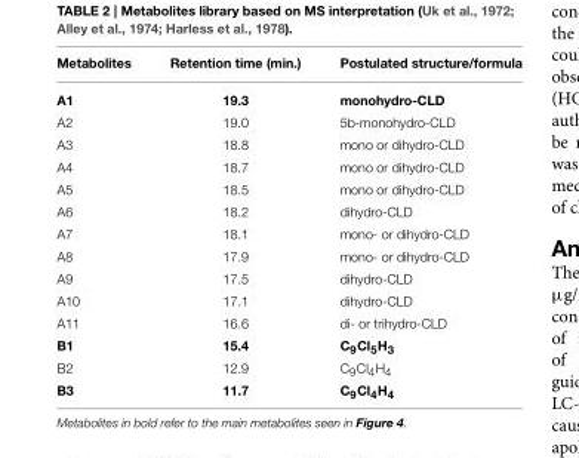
<table><thead><tr><td>Metabolites</td><td>Retention time (min.)</td><td>Postulated structure/formula</td></tr></thead><tbody><tr><td>A1</td><td>19.3</td><td>monohydro-CLD</td></tr><tr><td>A2</td><td>19.0</td><td>5b-monohydro-CLD</td></tr><tr><td>A3</td><td>18.8</td><td>mono or dihydro-CLD</td></tr><tr><td>A4</td><td>18.7</td><td>mono or dihydro-CLD</td></tr><tr><td>A5</td><td>18.5</td><td>mono or dihydro-CLD</td></tr><tr><td>A6</td><td>18.2</td><td>dihydro-CLD</td></tr><tr><td>A7</td><td>18.1</td><td>mono- or dihydro-CLD</td></tr><tr><td>A8</td><td>17.9</td><td>mono- or dihydro-CLD</td></tr><tr><td>A9</td><td>17.5</td><td>dihydro-CLD</td></tr><tr><td>A10</td><td>17.1</td><td>dihydro-CLD</td></tr><tr><td>A11</td><td>16.6</td><td>di- or trihydro-CLD</td></tr><tr><td>B1</td><td>15.4</td><td>C<sub>9</sub>Cl<sub>5</sub>H<sub>3</sub></td></tr><tr><td>B2</td><td>12.9</td><td>C<sub>9</sub>Cl<sub>4</sub>H<sub>4</sub></td></tr><tr><td>B3</td><td>11.7</td><td>C<sub>9</sub>Cl<sub>4</sub>H<sub>4</sub></td></tr></tbody></table>